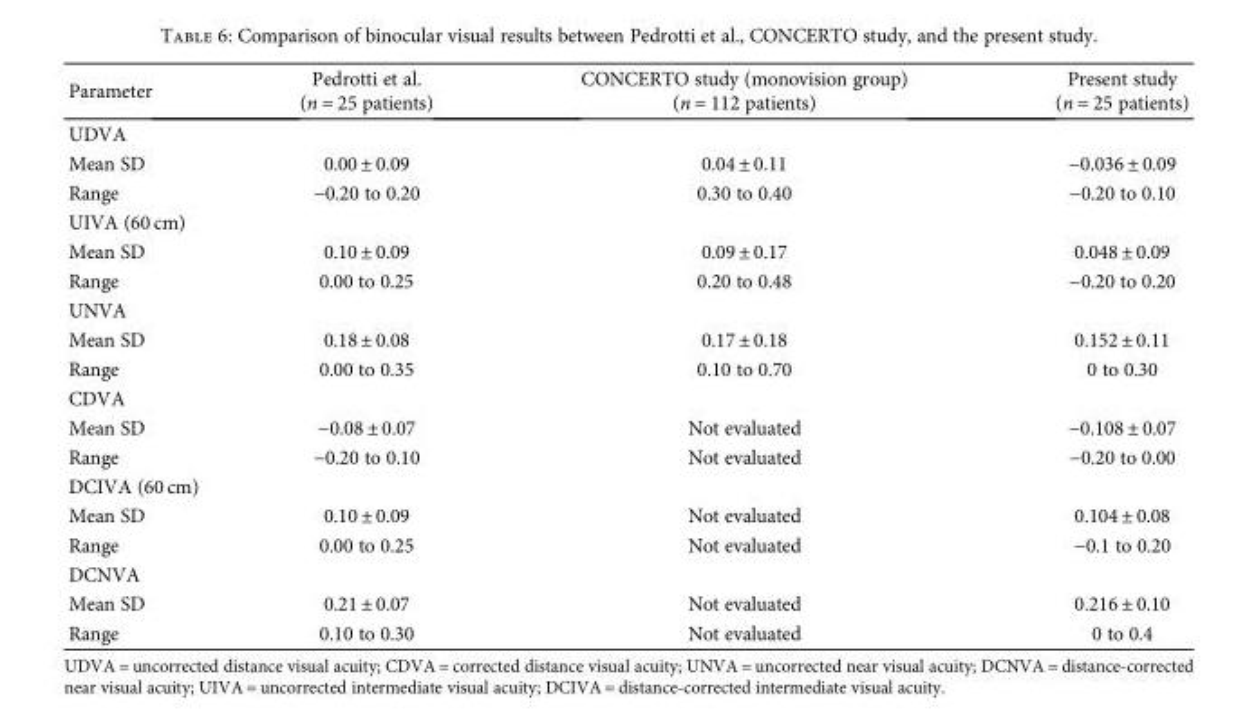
<table><thead><tr><td>Parameter</td><td>Pedrotti et al. (n = 25 patients)</td><td>CONCERTO study (monovision group) (n = 112 patients)</td><td>Present study (n = 25 patients)</td></tr></thead><tbody><tr><td colspan="4">UDVA</td></tr><tr><td>Mean SD</td><td>0.00 ± 0.09</td><td>0.04 ± 0.11</td><td>−0.036 ± 0.09</td></tr><tr><td>Range</td><td>−0.20 to 0.20</td><td>0.30 to 0.40</td><td>−0.20 to 0.10</td></tr><tr><td colspan="4">UIVA (60 cm)</td></tr><tr><td>Mean SD</td><td>0.10 ± 0.09</td><td>0.09 ± 0.17</td><td>0.048 ± 0.09</td></tr><tr><td>Range</td><td>0.00 to 0.25</td><td>0.20 to 0.48</td><td>−0.20 to 0.20</td></tr><tr><td colspan="4">UNVA</td></tr><tr><td>Mean SD</td><td>0.18 ± 0.08</td><td>0.17 ± 0.18</td><td>0.152 ± 0.11</td></tr><tr><td>Range</td><td>0.00 to 0.35</td><td>0.10 to 0.70</td><td>0 to 0.30</td></tr><tr><td colspan="4">CDVA</td></tr><tr><td>Mean SD</td><td>−0.08 ± 0.07</td><td>Not evaluated</td><td>−0.108 ± 0.07</td></tr><tr><td>Range</td><td>−0.20 to 0.10</td><td>Not evaluated</td><td>−0.20 to 0.00</td></tr><tr><td colspan="4">DCIVA (60 cm)</td></tr><tr><td>Mean SD</td><td>0.10 ± 0.09</td><td>Not evaluated</td><td>0.104 ± 0.08</td></tr><tr><td>Range</td><td>0.00 to 0.25</td><td>Not evaluated</td><td>−0.1 to 0.20</td></tr><tr><td colspan="4">DCNVA</td></tr><tr><td>Mean SD</td><td>0.21 ± 0.07</td><td>Not evaluated</td><td>0.216 ± 0.10</td></tr><tr><td>Range</td><td>0.10 to 0.30</td><td>Not evaluated</td><td>0 to 0.4</td></tr></tbody></table>